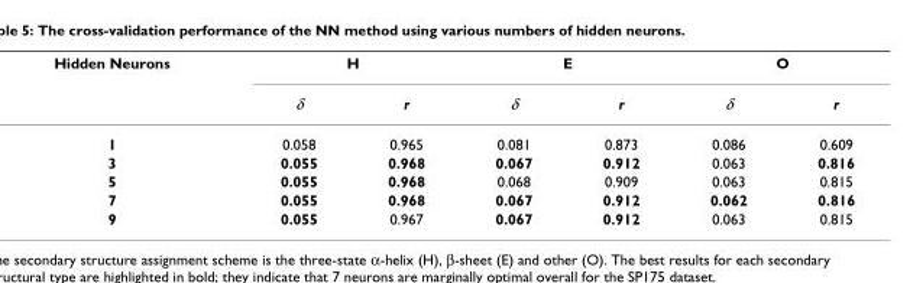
<table><thead><tr><td rowspan="2">Hidden Neurons</td><td colspan="2">H</td><td colspan="2">E</td><td colspan="2">O</td></tr><tr><td>δ</td><td>r</td><td>δ</td><td>r</td><td>δ</td><td>r</td></tr></thead><tbody><tr><td>1</td><td>0.058</td><td>0.965</td><td>0.081</td><td>0.873</td><td>0.086</td><td>0.609</td></tr><tr><td>3</td><td>0.055</td><td>0.968</td><td>0.067</td><td>0.912</td><td>0.063</td><td>0.816</td></tr><tr><td>5</td><td>0.055</td><td>0.968</td><td>0.068</td><td>0.909</td><td>0.063</td><td>0.815</td></tr><tr><td>7</td><td>0.055</td><td>0.968</td><td>0.067</td><td>0.912</td><td>0.062</td><td>0.816</td></tr><tr><td>9</td><td>0.055</td><td>0.967</td><td>0.067</td><td>0.912</td><td>0.063</td><td>0.815</td></tr></tbody></table>